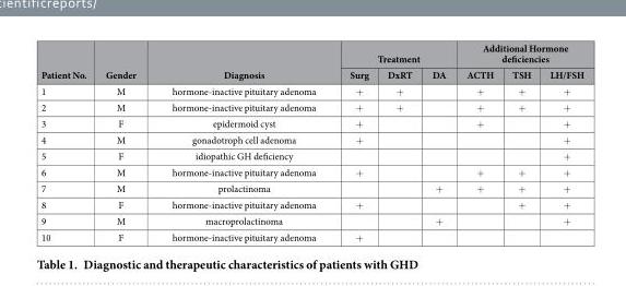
<table><thead><tr><td rowspan="2">Patient No.</td><td rowspan="2">Gender</td><td rowspan="2">Diagnosis</td><td colspan="3">Treatment</td><td colspan="3">Additional Hormone deficiencies</td></tr><tr><td>Surg</td><td>DxRT</td><td>DA</td><td>ACTH</td><td>TSH</td><td>LH/FSH</td></tr></thead><tbody><tr><td>1</td><td>M</td><td>hormone-inactive pituitary adenoma</td><td>+</td><td>+</td><td></td><td>+</td><td>+</td><td>+</td></tr><tr><td>2</td><td>M</td><td>hormone-inactive pituitary adenoma</td><td>+</td><td>+</td><td></td><td>+</td><td>+</td><td>+</td></tr><tr><td>3</td><td>F</td><td>epidermoid cyst</td><td>+</td><td></td><td></td><td>+</td><td></td><td>+</td></tr><tr><td>4</td><td>M</td><td>gonadotroph cell adenoma</td><td>+</td><td></td><td></td><td></td><td></td><td>+</td></tr><tr><td>5</td><td>F</td><td>idiopathic GH deficiency</td><td></td><td></td><td></td><td></td><td></td><td>+</td></tr><tr><td>6</td><td>M</td><td>hormone-inactive pituitary adenoma</td><td>+</td><td></td><td></td><td>+</td><td>+</td><td>+</td></tr><tr><td>7</td><td>M</td><td>prolactinoma</td><td></td><td></td><td>+</td><td>+</td><td>+</td><td>+</td></tr><tr><td>8</td><td>F</td><td>hormone-inactive pituitary adenoma</td><td>+</td><td></td><td></td><td></td><td>+</td><td>+</td></tr><tr><td>9</td><td>M</td><td>macroprolactinoma</td><td></td><td></td><td>+</td><td></td><td></td><td>+</td></tr><tr><td>10</td><td>F</td><td>hormone-inactive pituitary adenoma</td><td>+</td><td></td><td></td><td></td><td></td><td></td></tr></tbody></table>